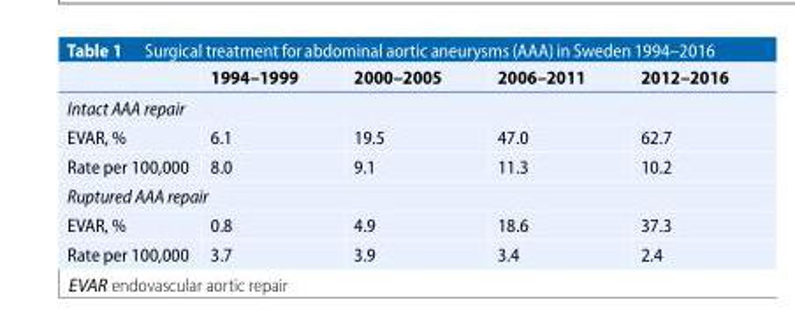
<table><thead><tr><td></td><td>1994–1999</td><td>2000–2005</td><td>2006–2011</td><td>2012–2016</td></tr></thead><tbody><tr><td colspan="5">Intact AAA repair</td></tr><tr><td>EVAR, %</td><td>6.1</td><td>19.5</td><td>47.0</td><td>62.7</td></tr><tr><td>Rate per 100,000</td><td>8.0</td><td>9.1</td><td>11.3</td><td>10.2</td></tr><tr><td colspan="5">Ruptured AAA repair</td></tr><tr><td>EVAR, %</td><td>0.8</td><td>4.9</td><td>18.6</td><td>37.3</td></tr><tr><td>Rate per 100,000</td><td>3.7</td><td>3.9</td><td>3.4</td><td>2.4</td></tr></tbody></table>